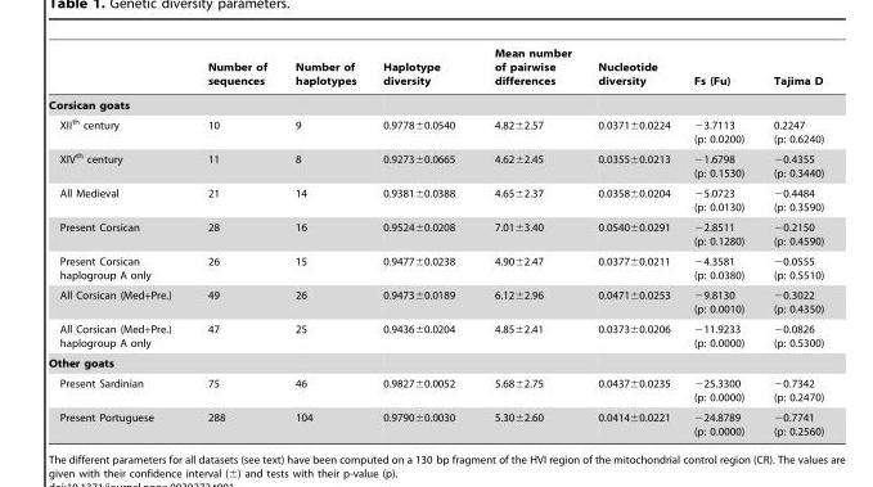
<table><thead><tr><td></td><td>Number of sequences</td><td>Number of haplotypes</td><td>Haplotype diversity</td><td>Mean number of pairwise differences</td><td>Nucleotide diversity</td><td>Fs (Fu)</td><td>Tajima D</td></tr></thead><tbody><tr><td colspan="8">Corsican goats</td></tr><tr><td>XII<sup>th</sup> century</td><td>10</td><td>9</td><td>0.9778±0.0540</td><td>4.82±2.57</td><td>0.0371±0.0224</td><td>−3.7113 (p: 0.0200)</td><td>0.2247 (p: 0.6240)</td></tr><tr><td>XIV<sup>th</sup> century</td><td>11</td><td>8</td><td>0.9273±0.0665</td><td>4.62±2.45</td><td>0.0355±0.0213</td><td>−1.6798 (p: 0.1530)</td><td>−0.4355 (p: 0.3440)</td></tr><tr><td>All Medieval</td><td>21</td><td>14</td><td>0.9381±0.0388</td><td>4.65±2.37</td><td>0.0358±0.0204</td><td>−5.0723 (p: 0.0130)</td><td>−0.4484 (p: 0.3590)</td></tr><tr><td>Present Corsican</td><td>28</td><td>16</td><td>0.9524±0.0208</td><td>7.01±3.40</td><td>0.0540±0.0291</td><td>−2.8511 (p: 0.1280)</td><td>−0.2150 (p: 0.4590)</td></tr><tr><td>Present Corsican haplogroup A only</td><td>26</td><td>15</td><td>0.9477±0.0238</td><td>4.90±2.47</td><td>0.0377±0.0211</td><td>−4.3581 (p: 0.0380)</td><td>−0.0555 (p: 0.5510)</td></tr><tr><td>All Corsican (Med+Pre.)</td><td>49</td><td>26</td><td>0.9473±0.0189</td><td>6.12±2.96</td><td>0.0471±0.0253</td><td>−9.8130 (p: 0.0010)</td><td>−0.3022 (p: 0.4350)</td></tr><tr><td>All Corsican (Med+Pre.) haplogroup A only</td><td>47</td><td>25</td><td>0.9436±0.0204</td><td>4.85±2.41</td><td>0.0373±0.0206</td><td>−11.9233 (p: 0.0000)</td><td>−0.0826 (p: 0.5300)</td></tr><tr><td colspan="8">Other goats</td></tr><tr><td>Present Sardinian</td><td>75</td><td>46</td><td>0.9827±0.0052</td><td>5.68±2.75</td><td>0.0437±0.0235</td><td>−25.3300 (p: 0.0000)</td><td>−0.7342 (p: 0.2470)</td></tr><tr><td>Present Portuguese</td><td>288</td><td>104</td><td>0.9790±0.0030</td><td>5.30±2.60</td><td>0.0414±0.0221</td><td>−24.8789 (p: 0.0000)</td><td>−0.7741 (p: 0.2560)</td></tr></tbody></table>